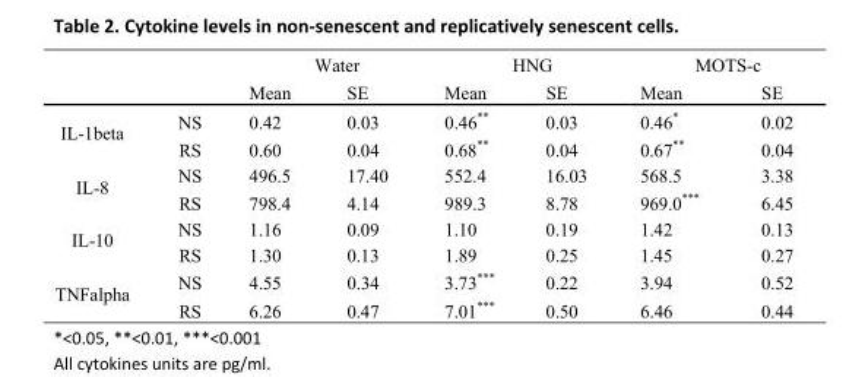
<table><thead><tr><td rowspan="2"></td><td rowspan="2"></td><td colspan="2">Water</td><td colspan="2">HNG</td><td colspan="2">MOTS-c</td></tr><tr><td>Mean</td><td>SE</td><td>Mean</td><td>SE</td><td>Mean</td><td>SE</td></tr></thead><tbody><tr><td rowspan="2">IL-1beta</td><td>NS</td><td>0.42</td><td>0.03</td><td>0.46**</td><td>0.03</td><td>0.46*</td><td>0.02</td></tr><tr><td>RS</td><td>0.60</td><td>0.04</td><td>0.68**</td><td>0.04</td><td>0.67**</td><td>0.04</td></tr><tr><td rowspan="2">IL-8</td><td>NS</td><td>496.5</td><td>17.40</td><td>552.4</td><td>16.03</td><td>568.5</td><td>3.38</td></tr><tr><td>RS</td><td>798.4</td><td>4.14</td><td>989.3</td><td>8.78</td><td>969.0***</td><td>6.45</td></tr><tr><td rowspan="2">IL-10</td><td>NS</td><td>1.16</td><td>0.09</td><td>1.10</td><td>0.19</td><td>1.42</td><td>0.13</td></tr><tr><td>RS</td><td>1.30</td><td>0.13</td><td>1.89</td><td>0.25</td><td>1.45</td><td>0.27</td></tr><tr><td rowspan="2">TNFalpha</td><td>NS</td><td>4.55</td><td>0.34</td><td>3.73***</td><td>0.22</td><td>3.94</td><td>0.52</td></tr><tr><td>RS</td><td>6.26</td><td>0.47</td><td>7.01***</td><td>0.50</td><td>6.46</td><td>0.44</td></tr></tbody></table>